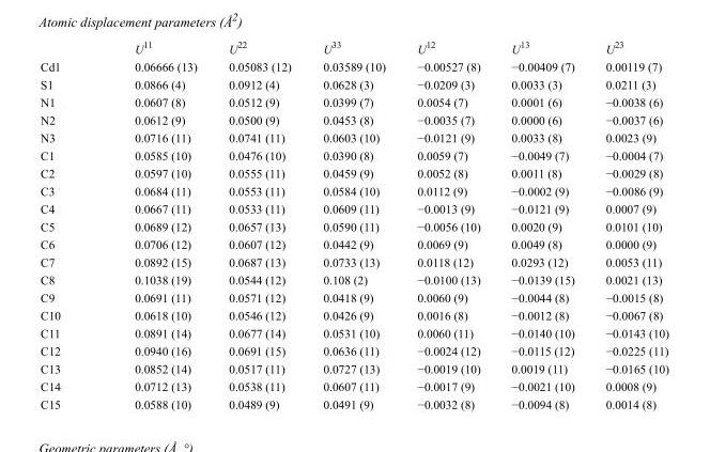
<table><thead><tr><td></td><td>U<sup>11</sup></td><td>U<sup>22</sup></td><td>U<sup>33</sup></td><td>U<sup>12</sup></td><td>U<sup>13</sup></td><td>U<sup>23</sup></td></tr></thead><tbody><tr><td>Cd1</td><td>0.06666 (13)</td><td>0.05083 (12)</td><td>0.03589 (10)</td><td>−0.00527 (8)</td><td>−0.00409 (7)</td><td>0.00119 (7)</td></tr><tr><td>S1</td><td>0.0866 (4)</td><td>0.0912 (4)</td><td>0.0628 (3)</td><td>−0.0209 (3)</td><td>0.0033 (3)</td><td>0.0211 (3)</td></tr><tr><td>N1</td><td>0.0607 (8)</td><td>0.0512 (9)</td><td>0.0399 (7)</td><td>0.0054 (7)</td><td>0.0001 (6)</td><td>−0.0038 (6)</td></tr><tr><td>N2</td><td>0.0612 (9)</td><td>0.0500 (9)</td><td>0.0453 (8)</td><td>−0.0035 (7)</td><td>0.0000 (6)</td><td>−0.0037 (6)</td></tr><tr><td>N3</td><td>0.0716 (11)</td><td>0.0741 (11)</td><td>0.0603 (10)</td><td>−0.0121 (9)</td><td>0.0033 (8)</td><td>0.0023 (9)</td></tr><tr><td>C1</td><td>0.0585 (10)</td><td>0.0476 (10)</td><td>0.0390 (8)</td><td>0.0059 (7)</td><td>−0.0049 (7)</td><td>−0.0004 (7)</td></tr><tr><td>C2</td><td>0.0597 (10)</td><td>0.0555 (11)</td><td>0.0459 (9)</td><td>0.0052 (8)</td><td>0.0011 (8)</td><td>−0.0029 (8)</td></tr><tr><td>C3</td><td>0.0684 (11)</td><td>0.0553 (11)</td><td>0.0584 (10)</td><td>0.0112 (9)</td><td>−0.0002 (9)</td><td>−0.0086 (9)</td></tr><tr><td>C4</td><td>0.0667 (11)</td><td>0.0533 (11)</td><td>0.0609 (11)</td><td>−0.0013 (9)</td><td>−0.0121 (9)</td><td>0.0007 (9)</td></tr><tr><td>C5</td><td>0.0689 (12)</td><td>0.0657 (13)</td><td>0.0590 (11)</td><td>−0.0056 (10)</td><td>0.0020 (9)</td><td>0.0101 (10)</td></tr><tr><td>C6</td><td>0.0706 (12)</td><td>0.0607 (12)</td><td>0.0442 (9)</td><td>0.0069 (9)</td><td>0.0049 (8)</td><td>0.0000 (9)</td></tr><tr><td>C7</td><td>0.0892 (15)</td><td>0.0687 (13)</td><td>0.0733 (13)</td><td>0.0118 (12)</td><td>0.0293 (12)</td><td>0.0053 (11)</td></tr><tr><td>C8</td><td>0.1038 (19)</td><td>0.0544 (12)</td><td>0.108 (2)</td><td>−0.0100 (13)</td><td>−0.0139 (15)</td><td>0.0021 (13)</td></tr><tr><td>C9</td><td>0.0691 (11)</td><td>0.0571 (12)</td><td>0.0418 (9)</td><td>0.0060 (9)</td><td>−0.0044 (8)</td><td>−0.0015 (8)</td></tr><tr><td>C10</td><td>0.0618 (10)</td><td>0.0546 (12)</td><td>0.0426 (9)</td><td>0.0016 (8)</td><td>−0.0012 (8)</td><td>−0.0067 (8)</td></tr><tr><td>C11</td><td>0.0891 (14)</td><td>0.0677 (14)</td><td>0.0531 (10)</td><td>0.0060 (11)</td><td>−0.0140 (10)</td><td>−0.0143 (10)</td></tr><tr><td>C12</td><td>0.0940 (16)</td><td>0.0691 (15)</td><td>0.0636 (11)</td><td>−0.0024 (12)</td><td>−0.0115 (12)</td><td>−0.0225 (11)</td></tr><tr><td>C13</td><td>0.0852 (14)</td><td>0.0517 (11)</td><td>0.0727 (13)</td><td>−0.0019 (10)</td><td>0.0019 (11)</td><td>−0.0165 (10)</td></tr><tr><td>C14</td><td>0.0712 (13)</td><td>0.0538 (11)</td><td>0.0607 (11)</td><td>−0.0017 (9)</td><td>−0.0021 (10)</td><td>0.0008 (9)</td></tr><tr><td>C15</td><td>0.0588 (10)</td><td>0.0489 (9)</td><td>0.0491 (9)</td><td>−0.0032 (8)</td><td>−0.0094 (8)</td><td>0.0014 (8)</td></tr></tbody></table>